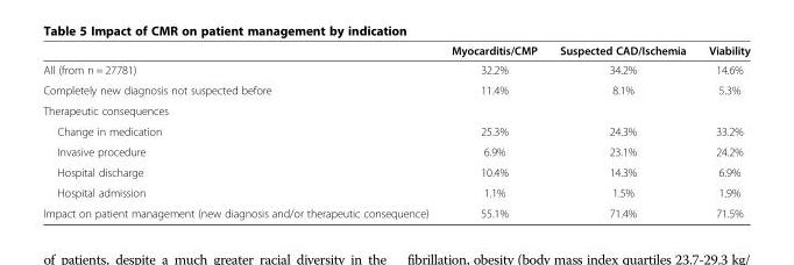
<table><thead><tr><td></td><td>Myocarditis/CMP</td><td>Suspected CAD/Ischemia</td><td>Viability</td></tr></thead><tbody><tr><td>All (from n = 27781)</td><td>32.2%</td><td>34.2%</td><td>14.6%</td></tr><tr><td>Completely new diagnosis not suspected before</td><td>11.4%</td><td>8.1%</td><td>5.3%</td></tr><tr><td colspan="4">Therapeutic consequences</td></tr><tr><td>Change in medication</td><td>25.3%</td><td>24.3%</td><td>33.2%</td></tr><tr><td>Invasive procedure</td><td>6.9%</td><td>23.1%</td><td>24.2%</td></tr><tr><td>Hospital discharge</td><td>10.4%</td><td>14.3%</td><td>6.9%</td></tr><tr><td>Hospital admission</td><td>1.1%</td><td>1.5%</td><td>1.9%</td></tr><tr><td>Impact on patient management (new diagnosis and/or therapeutic consequence)</td><td>55.1%</td><td>71.4%</td><td>71.5%</td></tr></tbody></table>